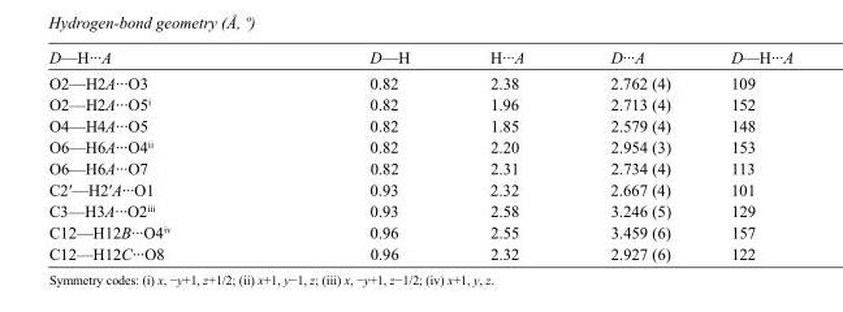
<table><tbody><tr><td>D—H···A</td><td>D—H</td><td>H···A</td><td>D···A</td><td>D—H···A</td></tr><tr><td>O2—H2A···O3</td><td>0.82</td><td>2.38</td><td>2.762 (4)</td><td>109</td></tr><tr><td>O2—H2A···O5<sup>i</sup></td><td>0.82</td><td>1.96</td><td>2.713 (4)</td><td>152</td></tr><tr><td>O4—H4A···O5</td><td>0.82</td><td>1.85</td><td>2.579 (4)</td><td>148</td></tr><tr><td>O6—H6A···O4<sup>ii</sup></td><td>0.82</td><td>2.20</td><td>2.954 (3)</td><td>153</td></tr><tr><td>O6—H6A···O7</td><td>0.82</td><td>2.31</td><td>2.734 (4)</td><td>113</td></tr><tr><td>C2′—H2′A···O1</td><td>0.93</td><td>2.32</td><td>2.667 (4)</td><td>101</td></tr><tr><td>C3—H3A···O2<sup>iii</sup></td><td>0.93</td><td>2.58</td><td>3.246 (5)</td><td>129</td></tr><tr><td>C12—H12B···O4<sup>iv</sup></td><td>0.96</td><td>2.55</td><td>3.459 (6)</td><td>157</td></tr><tr><td>C12—H12C···O8</td><td>0.96</td><td>2.32</td><td>2.927 (6)</td><td>122</td></tr></tbody></table>